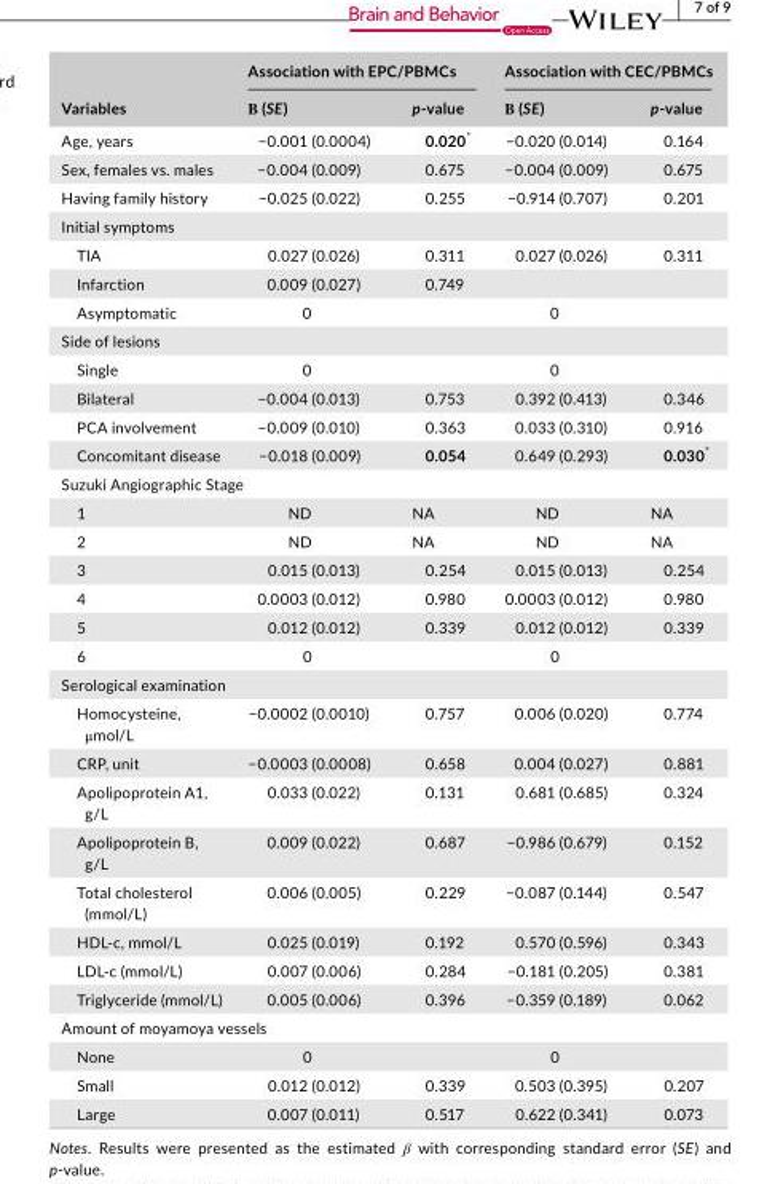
<table><thead><tr><td rowspan="2">Variables</td><td colspan="2">Association with EPC/PBMCs</td><td colspan="2">Association with CEC/PBMCs</td></tr><tr><td>Β (SE)</td><td>p- value</td><td>Β (SE)</td><td>p- value</td></tr></thead><tbody><tr><td>Age, years</td><td>−0.001 (0.0004)</td><td>0.020*</td><td>−0.020 (0.014)</td><td>0.164</td></tr><tr><td>Sex, females vs. males</td><td>−0.004 (0.009)</td><td>0.675</td><td>−0.004 (0.009)</td><td>0.675</td></tr><tr><td>Having family history</td><td>−0.025 (0.022)</td><td>0.255</td><td>−0.914 (0.707)</td><td>0.201</td></tr><tr><td colspan="5">Initial symptoms</td></tr><tr><td>TIA</td><td>0.027 (0.026)</td><td>0.311</td><td>0.027 (0.026)</td><td>0.311</td></tr><tr><td>Infarction</td><td>0.009 (0.027)</td><td>0.749</td><td></td><td></td></tr><tr><td>Asymptomatic</td><td>0</td><td></td><td>0</td><td></td></tr><tr><td colspan="5">Side of lesions</td></tr><tr><td>Single</td><td>0</td><td></td><td>0</td><td></td></tr><tr><td>Bilateral</td><td>−0.004 (0.013)</td><td>0.753</td><td>0.392 (0.413)</td><td>0.346</td></tr><tr><td>PCA involvement</td><td>−0.009 (0.010)</td><td>0.363</td><td>0.033 (0.310)</td><td>0.916</td></tr><tr><td>Concomitant disease</td><td>−0.018 (0.009)</td><td>0.054</td><td>0.649 (0.293)</td><td>0.030*</td></tr><tr><td colspan="5">Suzuki Angiographic Stage</td></tr><tr><td>1</td><td>ND</td><td>NA</td><td>ND</td><td>NA</td></tr><tr><td>2</td><td>ND</td><td>NA</td><td>ND</td><td>NA</td></tr><tr><td>3</td><td>0.015 (0.013)</td><td>0.254</td><td>0.015 (0.013)</td><td>0.254</td></tr><tr><td>4</td><td>0.0003 (0.012)</td><td>0.980</td><td>0.0003 (0.012)</td><td>0.980</td></tr><tr><td>5</td><td>0.012 (0.012)</td><td>0.339</td><td>0.012 (0.012)</td><td>0.339</td></tr><tr><td>6</td><td>0</td><td></td><td>0</td><td></td></tr><tr><td colspan="5">Serological examination</td></tr><tr><td>Homocysteine, μmol/L</td><td>−0.0002 (0.0010)</td><td>0.757</td><td>0.006 (0.020)</td><td>0.774</td></tr><tr><td>CRP, unit</td><td>−0.0003 (0.0008)</td><td>0.658</td><td>0.004 (0.027)</td><td>0.881</td></tr><tr><td>Apolipoprotein A1, g/L</td><td>0.033 (0.022)</td><td>0.131</td><td>0.681 (0.685)</td><td>0.324</td></tr><tr><td>Apolipoprotein B, g/L</td><td>0.009 (0.022)</td><td>0.687</td><td>−0.986 (0.679)</td><td>0.152</td></tr><tr><td>Total cholesterol (mmol/L)</td><td>0.006 (0.005)</td><td>0.229</td><td>−0.087 (0.144)</td><td>0.547</td></tr><tr><td>HDL- c, mmol/L</td><td>0.025 (0.019)</td><td>0.192</td><td>0.570 (0.596)</td><td>0.343</td></tr><tr><td>LDL- c (mmol/L)</td><td>0.007 (0.006)</td><td>0.284</td><td>−0.181 (0.205)</td><td>0.381</td></tr><tr><td>Triglyceride (mmol/L)</td><td>0.005 (0.006)</td><td>0.396</td><td>−0.359 (0.189)</td><td>0.062</td></tr><tr><td colspan="5">Amount of moyamoya vessels</td></tr><tr><td>None</td><td>0</td><td></td><td>0</td><td></td></tr><tr><td>Small</td><td>0.012 (0.012)</td><td>0.339</td><td>0.503 (0.395)</td><td>0.207</td></tr><tr><td>Large</td><td>0.007 (0.011)</td><td>0.517</td><td>0.622 (0.341)</td><td>0.073</td></tr></tbody></table>